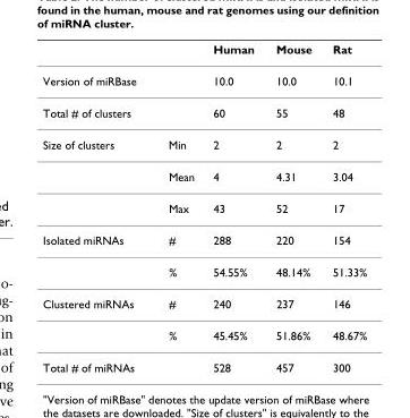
<table><thead><tr><td></td><td></td><td>Human</td><td>Mouse</td><td>Rat</td></tr></thead><tbody><tr><td>Version of miRBase</td><td></td><td>10.0</td><td>10.0</td><td>10.1</td></tr><tr><td>Total # of clusters</td><td></td><td>60</td><td>55</td><td>48</td></tr><tr><td rowspan="3">Size of clusters</td><td>Min</td><td>2</td><td>2</td><td>2</td></tr><tr><td>Mean</td><td>4</td><td>4.31</td><td>3.04</td></tr><tr><td>Max</td><td>43</td><td>52</td><td>17</td></tr><tr><td rowspan="2">Isolated miRNAs</td><td>#</td><td>288</td><td>220</td><td>154</td></tr><tr><td>%</td><td>54.55%</td><td>48.14%</td><td>51.33%</td></tr><tr><td rowspan="2">Clustered miRNAs</td><td>#</td><td>240</td><td>237</td><td>146</td></tr><tr><td>%</td><td>45.45%</td><td>51.86%</td><td>48.67%</td></tr><tr><td>Total # of miRNAs</td><td></td><td>528</td><td>457</td><td>300</td></tr></tbody></table>